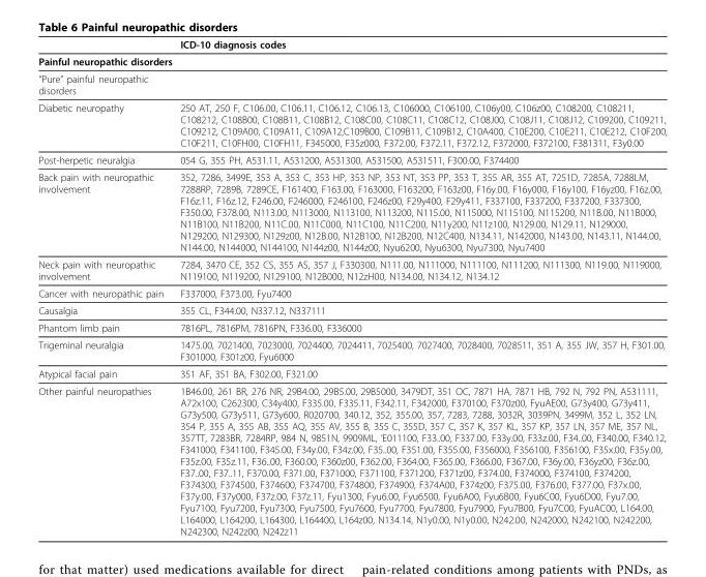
<table><thead><tr><td></td><td>ICD-10 diagnosis codes</td></tr></thead><tbody><tr><td colspan="2">Painful neuropathic disorders</td></tr><tr><td colspan="2">“Pure” painful neuropathic disorders</td></tr><tr><td>Diabetic neuropathy</td><td>250 AT, 250 F, C106.00, C106.11, C106.12, C106.13, C106000, C106100, C106y00, C106z00, C108200, C108211, C108212, C108B00, C108B11, C108B12, C108C00, C108C11, C108C12, C108J00, C108J11, C108J12, C109200, C109211, C109212, C109A00, C109A11, C109A12,C109B00, C109B11, C109B12, C10A400, C10E200, C10E211, C10E212, C10F200, C10F211, C10FH00, C10FH11, F345000, F35z000, F372.00, F372.11, F372.12, F372000, F372100, F381311, F3y0.00</td></tr><tr><td>Post-herpetic neuralgia</td><td>054 G, 355 PH, A531.11, A531200, A531300, A531500, A531511, F300.00, F374400</td></tr><tr><td>Back pain with neuropathic involvement</td><td>352, 7286, 3499E, 353 A, 353 C, 353 HP, 353 NP, 353 NT, 353 PP, 353 T, 355 AR, 355 AT, 7251D, 7285A, 7288LM, 7288RP, 7289B, 7289CE, F161400, F163.00, F163000, F163200, F163z00, F16y.00, F16y000, F16y100, F16yz00, F16z.00, F16z.11, F16z.12, F246.00, F246000, F246100, F246z00, F29y400, F29y411, F337100, F337200, F337200, F337300, F350.00, F378.00, N113.00, N113000, N113100, N113200, N115.00, N115000, N115100, N115200, N11B.00, N11B000, N11B100, N11B200, N11C.00, N11C000, N11C100, N11C200, N11y200, N11z100, N129.00, N129.11, N129000, N129200, N129300, N129z00, N12B.00, N12B100, N12B200, N12C400, N134.11, N142000, N143.00, N143.11, N144.00, N144.00, N144000, N144100, N144z00, N144z00, Nyu6200, Nyu6300, Nyu7300, Nyu7400</td></tr><tr><td>Neck pain with neuropathic involvement</td><td>7284, 3470 CE, 352 CS, 355 AS, 357 J, F330300, N111.00, N111000, N111100, N111200, N111300, N119.00, N119000, N119100, N119200, N129100, N12B000, N12zH00, N134.00, N134.12, N134.12</td></tr><tr><td>Cancer with neuropathic pain</td><td>F337000, F373.00, Fyu7400</td></tr><tr><td>Causalgia</td><td>355 CL, F344.00, N337.12, N337111</td></tr><tr><td>Phantom limb pain</td><td>7816PL, 7816PM, 7816PN, F336.00, F336000</td></tr><tr><td>Trigeminal neuralgia</td><td>1475.00, 7021400, 7023000, 7024400, 7024411, 7025400, 7027400, 7028400, 7028511, 351 A, 355 JW, 357 H, F301.00, F301000, F301z00, Fyu6000</td></tr><tr><td>Atypical facial pain</td><td>351 AF, 351 BA, F302.00, F321.00</td></tr><tr><td>Other painful neuropathies</td><td>1B46.00, 261 BR, 276 NR, 29B4.00, 29B5.00, 29B5000, 3479DT, 351 OC, 7871 HA, 7871 HB, 792 N, 792 PN, A531111, A72x100, C262300, C34y400, F335.00, F335.11, F342.11, F342000, F370100, F370z00, FyuAE00, G73y400, G73y411, G73y500, G73y511, G73y600, R020700, 340.12, 352, 355.00, 357, 7283, 7288, 3032R, 3039PN, 3499M, 352 L, 352 LN, 354 P, 355 A, 355 AB, 355 AQ, 355 AV, 355 B, 355 C, 355D, 357 C, 357 K, 357 KL, 357 KP, 357 LN, 357 ME, 357 NL, 357TT, 7283BR, 7284RP, 984 N, 9851N, 9909ML, ‘E011100, F33..00, F337.00, F33y.00, F33z.00, F34..00, F340.00, F340.12, F341000, F341100, F345.00, F34y.00, F34z.00, F35..00, F351.00, F355.00, F356000, F356100, F356100, F35x.00, F35y.00, F35z.00, F35z.11, F36..00, F360.00, F360z00, F362.00, F364.00, F365.00, F366.00, F367.00, F36y.00, F36yz00, F36z.00, F37..00, F37..11, F370.00, F371.00, F371000, F371100, F371200, F371z00, F374.00, F374000, F374100, F374200, F374300, F374500, F374600, F374700, F374800, F374900, F374A00, F374z00, F375.00, F376.00, F377.00, F37x.00, F37y.00, F37y000, F37z.00, F37z.11, Fyu1300, Fyu6.00, Fyu6500, Fyu6A00, Fyu6B00, Fyu6C00, Fyu6D00, Fyu7.00, Fyu7100, Fyu7200, Fyu7300, Fyu7500, Fyu7600, Fyu7700, Fyu7800, Fyu7900, Fyu7B00, Fyu7C00, FyuAC00, L164.00, L164000, L164200, L164300, L164400, L164z00, N134.14, N1y0.00, N1y0.00, N242.00, N242000, N242100, N242200, N242300, N242z00, N242z11</td></tr></tbody></table>